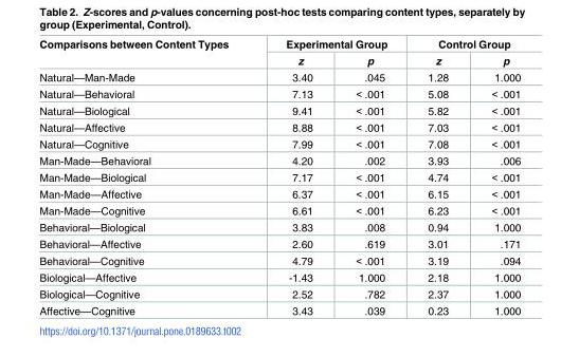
<table><thead><tr><td rowspan="2">Comparisons between Content Types</td><td colspan="2">Experimental Group</td><td colspan="2">Control Group</td></tr><tr><td>z</td><td>p</td><td>z</td><td>p</td></tr></thead><tbody><tr><td>Natural—Man-Made</td><td>3.40</td><td>.045</td><td>1.28</td><td>1.000</td></tr><tr><td>Natural—Behavioral</td><td>7.13</td><td>&lt; .001</td><td>5.08</td><td>&lt; .001</td></tr><tr><td>Natural—Biological</td><td>9.41</td><td>&lt; .001</td><td>5.82</td><td>&lt; .001</td></tr><tr><td>Natural—Affective</td><td>8.88</td><td>&lt; .001</td><td>7.03</td><td>&lt; .001</td></tr><tr><td>Natural—Cognitive</td><td>7.99</td><td>&lt; .001</td><td>7.08</td><td>&lt; .001</td></tr><tr><td>Man-Made—Behavioral</td><td>4.20</td><td>.002</td><td>3.93</td><td>.006</td></tr><tr><td>Man-Made—Biological</td><td>7.17</td><td>&lt; .001</td><td>4.74</td><td>&lt; .001</td></tr><tr><td>Man-Made—Affective</td><td>6.37</td><td>&lt; .001</td><td>6.15</td><td>&lt; .001</td></tr><tr><td>Man-Made—Cognitive</td><td>6.61</td><td>&lt; .001</td><td>6.23</td><td>&lt; .001</td></tr><tr><td>Behavioral—Biological</td><td>3.83</td><td>.008</td><td>0.94</td><td>1.000</td></tr><tr><td>Behavioral—Affective</td><td>2.60</td><td>.619</td><td>3.01</td><td>.171</td></tr><tr><td>Behavioral—Cognitive</td><td>4.79</td><td>&lt; .001</td><td>3.19</td><td>.094</td></tr><tr><td>Biological—Affective</td><td>-1.43</td><td>1.000</td><td>2.18</td><td>1.000</td></tr><tr><td>Biological—Cognitive</td><td>2.52</td><td>.782</td><td>2.37</td><td>1.000</td></tr><tr><td>Affective—Cognitive</td><td>3.43</td><td>.039</td><td>0.23</td><td>1.000</td></tr></tbody></table>